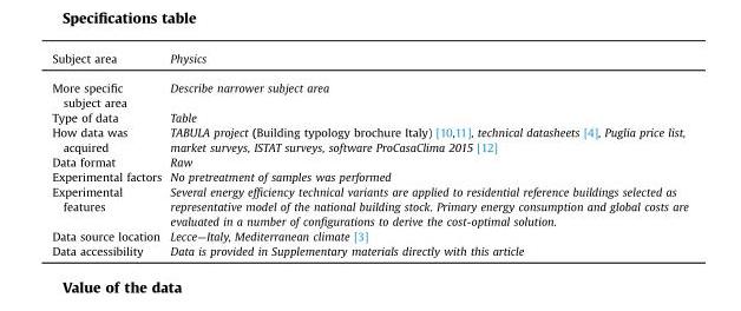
<table><thead><tr><td>Subject area</td><td>Physics</td></tr></thead><tbody><tr><td>More specific subject area</td><td>Describe narrower subject area</td></tr><tr><td>Type of data</td><td>Table</td></tr><tr><td>How data was acquired</td><td>TABULA project (Building typology brochure Italy) [10,11], technical datasheets [4], Puglia price list, market surveys, ISTAT surveys, software ProCasaClima 2015 [12]</td></tr><tr><td>Data format</td><td>Raw</td></tr><tr><td>Experimental factors</td><td>No pretreatment of samples was performed</td></tr><tr><td>Experimental features</td><td>Several energy efficiency technical variants are applied to residential reference buildings selected as representative model of the national building stock. Primary energy consumption and global costs are evaluated in a number of configurations to derive the cost-optimal solution.</td></tr><tr><td>Data source location</td><td>Lecce—Italy, Mediterranean climate [3]</td></tr><tr><td>Data accessibility</td><td>Data is provided in Supplementary materials directly with this article</td></tr></tbody></table>